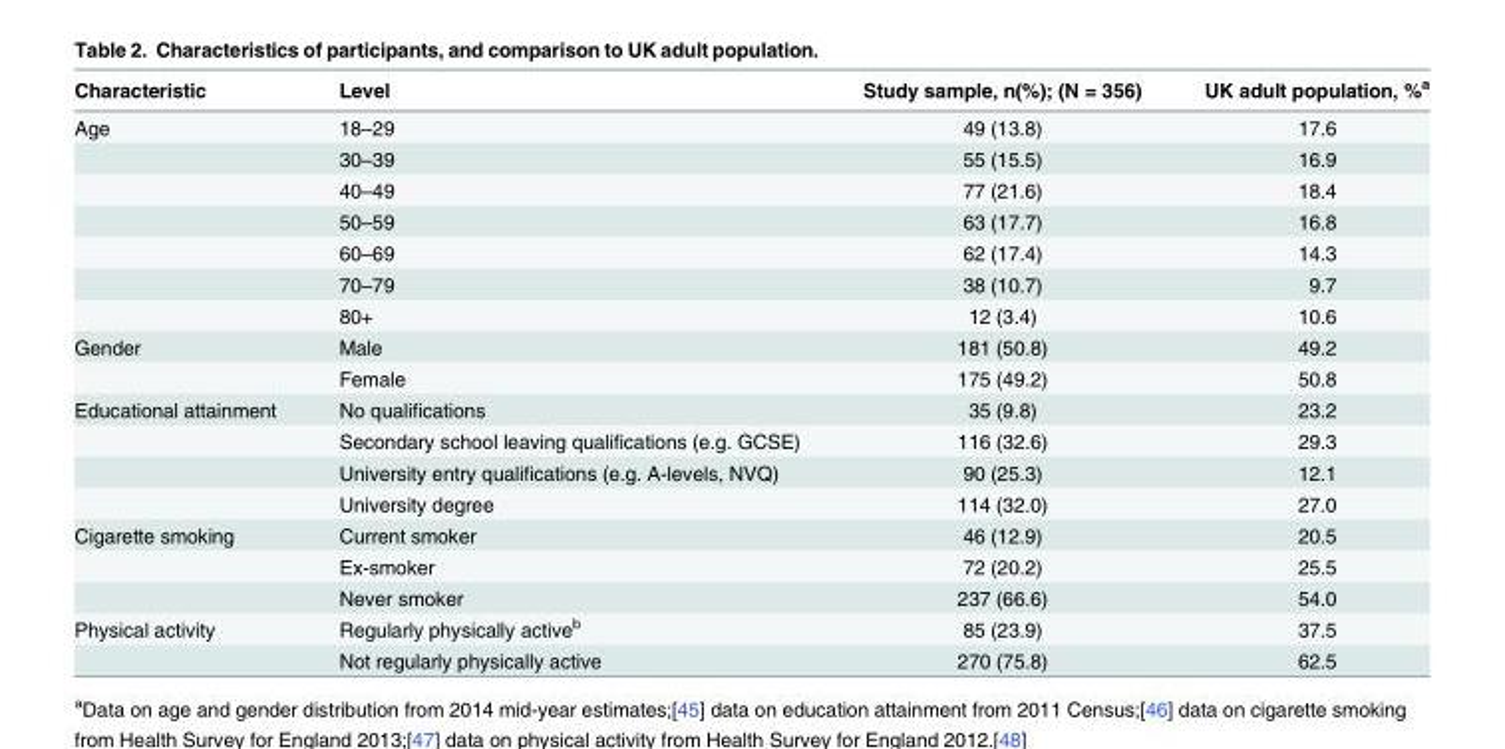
<table><thead><tr><td>Characteristic</td><td>Level</td><td>Study sample, n(%); (N = 356)</td><td>UK adult population, %<sup>a</sup></td></tr></thead><tbody><tr><td rowspan="7">Age</td><td>18–29</td><td>49 (13.8)</td><td>17.6</td></tr><tr><td>30–39</td><td>55 (15.5)</td><td>16.9</td></tr><tr><td>40–49</td><td>77 (21.6)</td><td>18.4</td></tr><tr><td>50–59</td><td>63 (17.7)</td><td>16.8</td></tr><tr><td>60–69</td><td>62 (17.4)</td><td>14.3</td></tr><tr><td>70–79</td><td>38 (10.7)</td><td>9.7</td></tr><tr><td>80+</td><td>12 (3.4)</td><td>10.6</td></tr><tr><td rowspan="2">Gender</td><td>Male</td><td>181 (50.8)</td><td>49.2</td></tr><tr><td>Female</td><td>175 (49.2)</td><td>50.8</td></tr><tr><td rowspan="4">Educational attainment</td><td>No qualifications</td><td>35 (9.8)</td><td>23.2</td></tr><tr><td>Secondary school leaving qualifications (e.g. GCSE)</td><td>116 (32.6)</td><td>29.3</td></tr><tr><td>University entry qualifications (e.g. A-levels, NVQ)</td><td>90 (25.3)</td><td>12.1</td></tr><tr><td>University degree</td><td>114 (32.0)</td><td>27.0</td></tr><tr><td rowspan="3">Cigarette smoking</td><td>Current smoker</td><td>46 (12.9)</td><td>20.5</td></tr><tr><td>Ex-smoker</td><td>72 (20.2)</td><td>25.5</td></tr><tr><td>Never smoker</td><td>237 (66.6)</td><td>54.0</td></tr><tr><td rowspan="2">Physical activity</td><td>Regularly physically active<sup>b</sup></td><td>85 (23.9)</td><td>37.5</td></tr><tr><td>Not regularly physically active</td><td>270 (75.8)</td><td>62.5</td></tr></tbody></table>